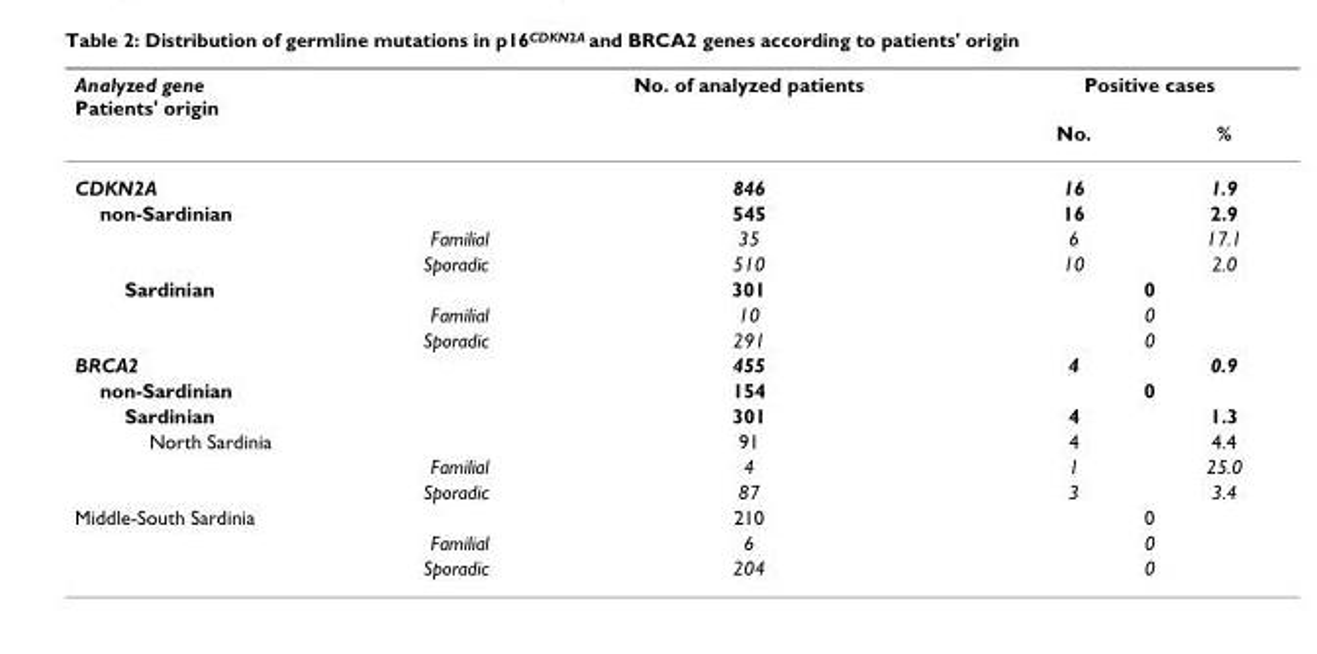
<table><thead><tr><td rowspan="2">Analyzed gene Patients&#x27; origin</td><td rowspan="2">No. of analyzed patients</td><td colspan="2">Positive cases</td></tr><tr><td>No.</td><td>%</td></tr></thead><tbody><tr><td>CDKN2A</td><td>846</td><td>16</td><td>1.9</td></tr><tr><td>non-Sardinian</td><td>545</td><td>16</td><td>2.9</td></tr><tr><td>Familial</td><td>35</td><td>6</td><td>17.1</td></tr><tr><td>Sporadic</td><td>510</td><td>10</td><td>2.0</td></tr><tr><td>Sardinian</td><td>301</td><td colspan="2">0</td></tr><tr><td>Familial</td><td>10</td><td colspan="2">0</td></tr><tr><td>Sporadic</td><td>291</td><td colspan="2">0</td></tr><tr><td>BRCA2</td><td>455</td><td>4</td><td>0.9</td></tr><tr><td>non-Sardinian</td><td>154</td><td colspan="2">0</td></tr><tr><td>Sardinian</td><td>301</td><td>4</td><td>1.3</td></tr><tr><td>North Sardinia</td><td>91</td><td>4</td><td>4.4</td></tr><tr><td>Familial</td><td>4</td><td>1</td><td>25.0</td></tr><tr><td>Sporadic</td><td>87</td><td>3</td><td>3.4</td></tr><tr><td>Middle-South Sardinia</td><td>210</td><td colspan="2">0</td></tr><tr><td>Familial</td><td>6</td><td colspan="2">0</td></tr><tr><td>Sporadic</td><td>204</td><td colspan="2">0</td></tr></tbody></table>